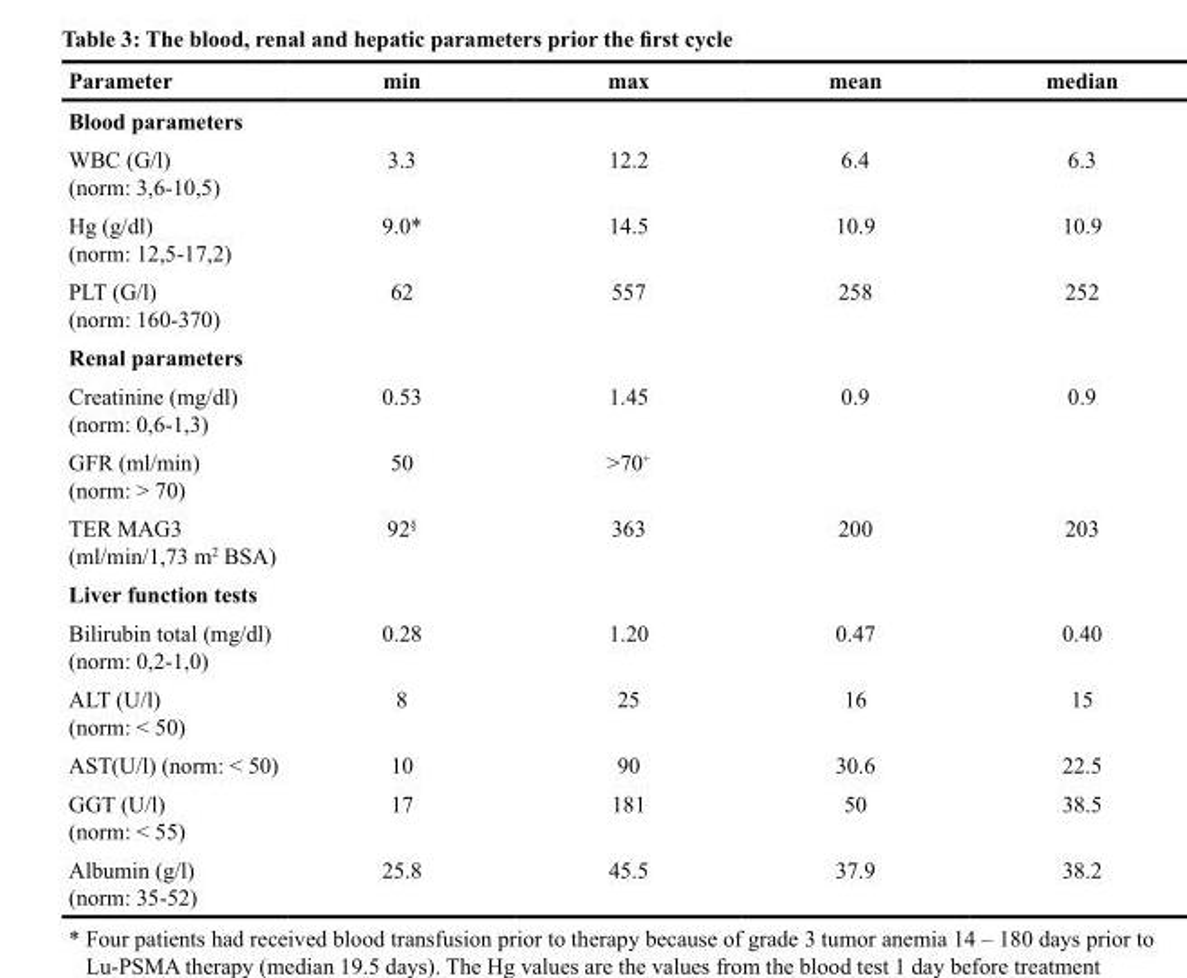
<table><thead><tr><td>Parameter</td><td>min</td><td>max</td><td>mean</td><td>median</td></tr></thead><tbody><tr><td colspan="5">Blood parameters</td></tr><tr><td>WBC (G/l) (norm: 3,6-10,5)</td><td>3.3</td><td>12.2</td><td>6.4</td><td>6.3</td></tr><tr><td>Hg (g/dl) (norm: 12,5-17,2)</td><td>9.0*</td><td>14.5</td><td>10.9</td><td>10.9</td></tr><tr><td>PLT (G/l) (norm: 160-370)</td><td>62</td><td>557</td><td>258</td><td>252</td></tr><tr><td colspan="5">Renal parameters</td></tr><tr><td>Creatinine (mg/dl) (norm: 0,6-1,3)</td><td>0.53</td><td>1.45</td><td>0.9</td><td>0.9</td></tr><tr><td>GFR (ml/min) (norm: &gt; 70)</td><td>50</td><td>&gt;70<sup>+</sup></td><td></td><td></td></tr><tr><td>TER MAG3 (ml/min/1,73 m<sup>2</sup> BSA)</td><td>92<sup>§</sup></td><td>363</td><td>200</td><td>203</td></tr><tr><td colspan="5">Liver function tests</td></tr><tr><td>Bilirubin total (mg/dl) (norm: 0,2-1,0)</td><td>0.28</td><td>1.20</td><td>0.47</td><td>0.40</td></tr><tr><td>ALT (U/l) (norm: &lt; 50)</td><td>8</td><td>25</td><td>16</td><td>15</td></tr><tr><td>AST(U/l) (norm: &lt; 50)</td><td>10</td><td>90</td><td>30.6</td><td>22.5</td></tr><tr><td>GGT (U/l) (norm: &lt; 55)</td><td>17</td><td>181</td><td>50</td><td>38.5</td></tr><tr><td>Albumin (g/l) (norm: 35-52)</td><td>25.8</td><td>45.5</td><td>37.9</td><td>38.2</td></tr></tbody></table>